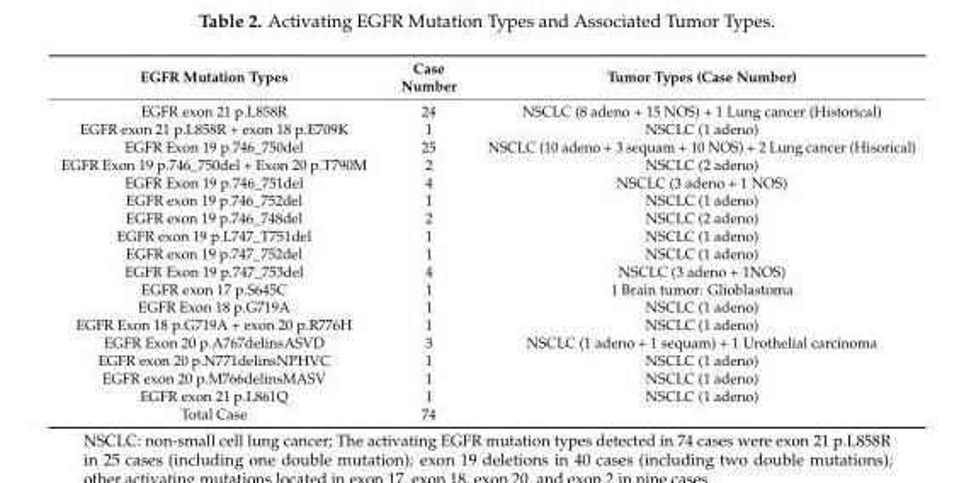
<table><thead><tr><td>EGFR Mutation Types</td><td>Case Number</td><td>Tumor Types (Case Number)</td></tr></thead><tbody><tr><td>EGFR exon 21 p.L858R</td><td>24</td><td>NSCLC (8 adeno + 15 NOS) + 1 Lung cancer (Historical)</td></tr><tr><td>EGFR exon 21 p.L858R + exon 18 p.E709K</td><td>1</td><td>NSCLC (1 adeno)</td></tr><tr><td>EGFR Exon 19 p.746_750del</td><td>25</td><td>NSCLC (10 adeno + 3 sequam + 10 NOS) + 2 Lung cancer (Hisorical)</td></tr><tr><td>EGFR Exon 19 p.746_750del + Exon 20 p.T790M</td><td>2</td><td>NSCLC (2 adeno)</td></tr><tr><td>EGFR Exon 19 p.746_751del</td><td>4</td><td>NSCLC (3 adeno + 1 NOS)</td></tr><tr><td>EGFR exon 19 p.746_752del</td><td>1</td><td>NSCLC (1 adeno)</td></tr><tr><td>EGFR exon 19 p.746_748del</td><td>2</td><td>NSCLC (2 adeno)</td></tr><tr><td>EGFR exon 19 p.L747_T751del</td><td>1</td><td>NSCLC (1 adeno)</td></tr><tr><td>EGFR exon 19 p.747_752del</td><td>1</td><td>NSCLC (1 adeno)</td></tr><tr><td>EGFR Exon 19 p.747_753del</td><td>4</td><td>NSCLC (3 adeno + 1NOS)</td></tr><tr><td>EGFR exon 17 p.S645C</td><td>1</td><td>1 Brain tumor: Glioblastoma</td></tr><tr><td>EGFR Exon 18 p.G719A</td><td>1</td><td>NSCLC (1 adeno)</td></tr><tr><td>EGFR Exon 18 p.G719A + exon 20 p.R776H</td><td>1</td><td>NSCLC (1 adeno)</td></tr><tr><td>EGFR Exon 20 p.A767delinsASVD</td><td>3</td><td>NSCLC (1 adeno + 1 sequam) + 1 Urothelial carcinoma</td></tr><tr><td>EGFR exon 20 p.N771delinsNPHVC</td><td>1</td><td>NSCLC (1 adeno)</td></tr><tr><td>EGFR exon 20 p.M766delinsMASV</td><td>1</td><td>NSCLC (1 adeno)</td></tr><tr><td>EGFR exon 21 p.L861Q</td><td>1</td><td>NSCLC (1 adeno)</td></tr><tr><td>Total Case</td><td>74</td><td></td></tr></tbody></table>